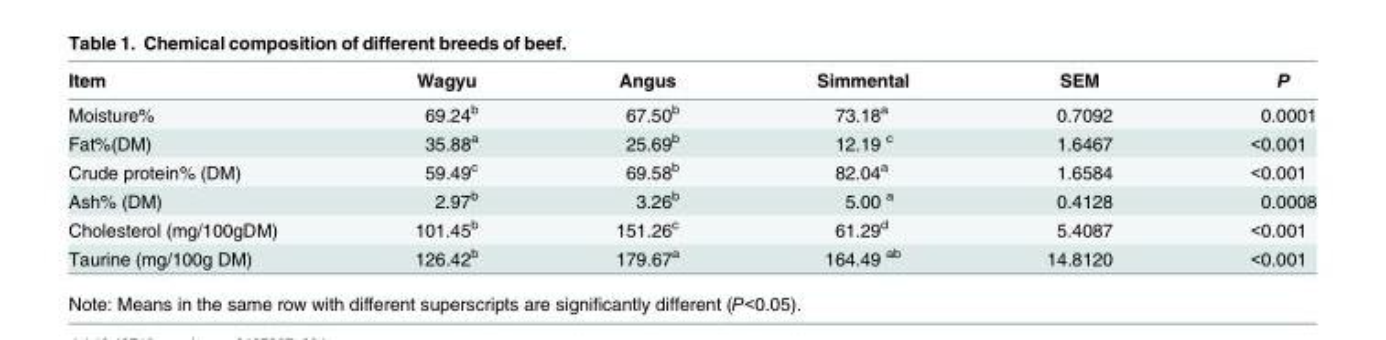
<table><thead><tr><td>Item</td><td>Wagyu</td><td>Angus</td><td>Simmental</td><td>SEM</td><td>P</td></tr></thead><tbody><tr><td>Moisture%</td><td>69.24<sup>b</sup></td><td>67.50<sup>b</sup></td><td>73.18<sup>a</sup></td><td>0.7092</td><td>0.0001</td></tr><tr><td>Fat%(DM)</td><td>35.88<sup>a</sup></td><td>25.69<sup>b</sup></td><td>12.19 <sup>c</sup></td><td>1.6467</td><td>&lt;0.001</td></tr><tr><td>Crude protein% (DM)</td><td>59.49<sup>c</sup></td><td>69.58<sup>b</sup></td><td>82.04<sup>a</sup></td><td>1.6584</td><td>&lt;0.001</td></tr><tr><td>Ash% (DM)</td><td>2.97<sup>b</sup></td><td>3.26<sup>b</sup></td><td>5.00 <sup>a</sup></td><td>0.4128</td><td>0.0008</td></tr><tr><td>Cholesterol (mg/100gDM)</td><td>101.45<sup>b</sup></td><td>151.26<sup>c</sup></td><td>61.29<sup>d</sup></td><td>5.4087</td><td>&lt;0.001</td></tr><tr><td>Taurine (mg/100g DM)</td><td>126.42<sup>b</sup></td><td>179.67<sup>a</sup></td><td>164.49 <sup>ab</sup></td><td>14.8120</td><td>&lt;0.001</td></tr></tbody></table>